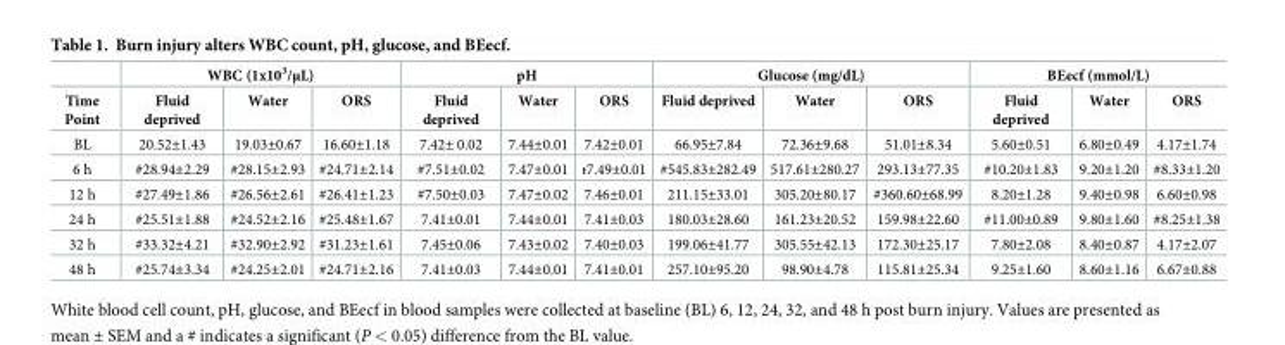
<table><thead><tr><td rowspan="2">Time Point</td><td colspan="3">WBC (1x10<sup>3</sup>/μL)</td><td colspan="3">pH</td><td colspan="3">Glucose (mg/dL)</td><td colspan="3">BEecf (mmol/L)</td></tr><tr><td>Fluid deprived</td><td>Water</td><td>ORS</td><td>Fluid deprived</td><td>Water</td><td>ORS</td><td>Fluid deprived</td><td>Water</td><td>ORS</td><td>Fluid deprived</td><td>Water</td><td>ORS</td></tr></thead><tbody><tr><td>BL</td><td>20.52±1.43</td><td>19.03±0.67</td><td>16.60±1.18</td><td>7.42± 0.02</td><td>7.44±0.01</td><td>7.42±0.01</td><td>66.95±7.84</td><td>72.36±9.68</td><td>51.01±8.34</td><td>5.60±0.51</td><td>6.80±0.49</td><td>4.17±1.74</td></tr><tr><td>6 h</td><td>#28.94±2.29</td><td>#28.15±2.93</td><td>#24.71±2.14</td><td>#7.51±0.02</td><td>7.47±0.01</td><td>ᵻ7.49±0.01</td><td>#545.83±282.49</td><td>517.61±280.27</td><td>293.13±77.35</td><td>#10.20±1.83</td><td>9.20±1.20</td><td>#8.33±1.20</td></tr><tr><td>12 h</td><td>#27.49±1.86</td><td>#26.56±2.61</td><td>#26.41±1.23</td><td>#7.50±0.03</td><td>7.47±0.02</td><td>7.46±0.01</td><td>211.15±33.01</td><td>305.20±80.17</td><td>#360.60±68.99</td><td>8.20±1.28</td><td>9.40±0.98</td><td>6.60±0.98</td></tr><tr><td>24 h</td><td>#25.51±1.88</td><td>#24.52±2.16</td><td>#25.48±1.67</td><td>7.41±0.01</td><td>7.44±0.01</td><td>7.41±0.03</td><td>180.03±28.60</td><td>161.23±20.52</td><td>159.98±22.60</td><td>#11.00±0.89</td><td>9.80±1.60</td><td>#8.25±1.38</td></tr><tr><td>32 h</td><td>#33.32±4.21</td><td>#32.90±2.92</td><td>#31.23±1.61</td><td>7.45±0.06</td><td>7.43±0.02</td><td>7.40±0.03</td><td>199.06±41.77</td><td>305.55±42.13</td><td>172.30±25.17</td><td>7.80±2.08</td><td>8.40±0.87</td><td>4.17±2.07</td></tr><tr><td>48 h</td><td>#25.74±3.34</td><td>#24.25±2.01</td><td>#24.71±2.16</td><td>7.41±0.03</td><td>7.44±0.01</td><td>7.41±0.01</td><td>257.10±95.20</td><td>98.90±4.78</td><td>115.81±25.34</td><td>9.25±1.60</td><td>8.60±1.16</td><td>6.67±0.88</td></tr></tbody></table>